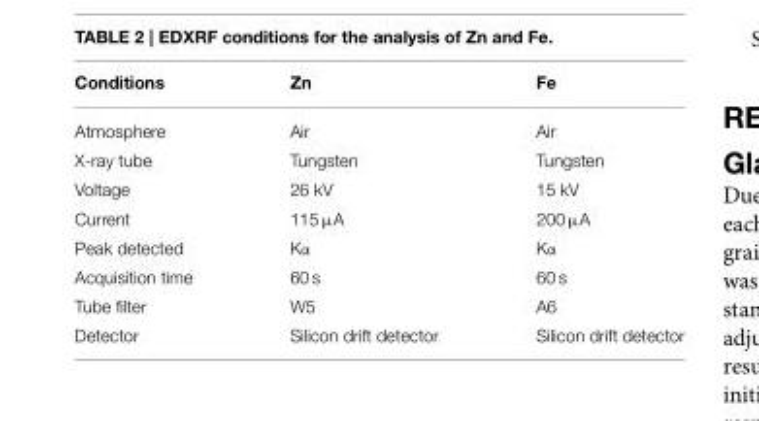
<table><thead><tr><td>Conditions</td><td>Zn</td><td>Fe</td></tr></thead><tbody><tr><td>Atmosphere</td><td>Air</td><td>Air</td></tr><tr><td>X-ray tube</td><td>Tungsten</td><td>Tungsten</td></tr><tr><td>Voltage</td><td>26 kV</td><td>15 kV</td></tr><tr><td>Current</td><td>115 µA</td><td>200 µA</td></tr><tr><td>Peak detected</td><td>Kα</td><td>Kα</td></tr><tr><td>Acquisition time</td><td>60 s</td><td>60 s</td></tr><tr><td>Tube filter</td><td>W5</td><td>A6</td></tr><tr><td>Detector</td><td>Silicon drift detector</td><td>Silicon drift detector</td></tr></tbody></table>